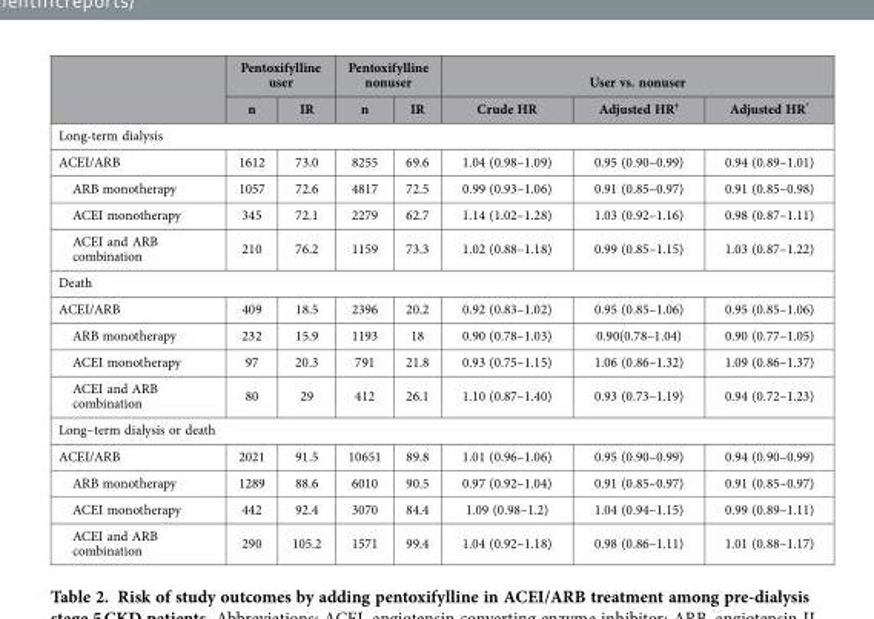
<table><thead><tr><td rowspan="2"></td><td colspan="2">Pentoxifylline user</td><td colspan="2">Pentoxifylline nonuser</td><td colspan="3">User vs. nonuser</td></tr><tr><td>n</td><td>IR</td><td>n</td><td>IR</td><td>Crude HR</td><td>Adjusted HR†</td><td>Adjusted HR*</td></tr></thead><tbody><tr><td colspan="8">Long-term dialysis</td></tr><tr><td>ACEI/ARB</td><td>1612</td><td>73.0</td><td>8255</td><td>69.6</td><td>1.04 (0.98–1.09)</td><td>0.95 (0.90–0.99)</td><td>0.94 (0.89–1.01)</td></tr><tr><td>ARB monotherapy</td><td>1057</td><td>72.6</td><td>4817</td><td>72.5</td><td>0.99 (0.93–1.06)</td><td>0.91 (0.85–0.97)</td><td>0.91 (0.85–0.98)</td></tr><tr><td>ACEI monotherapy</td><td>345</td><td>72.1</td><td>2279</td><td>62.7</td><td>1.14 (1.02–1.28)</td><td>1.03 (0.92–1.16)</td><td>0.98 (0.87–1.11)</td></tr><tr><td>ACEI and ARB combination</td><td>210</td><td>76.2</td><td>1159</td><td>73.3</td><td>1.02 (0.88–1.18)</td><td>0.99 (0.85–1.15)</td><td>1.03 (0.87–1.22)</td></tr><tr><td colspan="8">Death</td></tr><tr><td>ACEI/ARB</td><td>409</td><td>18.5</td><td>2396</td><td>20.2</td><td>0.92 (0.83–1.02)</td><td>0.95 (0.85–1.06)</td><td>0.95 (0.85–1.06)</td></tr><tr><td>ARB monotherapy</td><td>232</td><td>15.9</td><td>1193</td><td>18</td><td>0.90 (0.78–1.03)</td><td>0.90(0.78–1.04)</td><td>0.90 (0.77–1.05)</td></tr><tr><td>ACEI monotherapy</td><td>97</td><td>20.3</td><td>791</td><td>21.8</td><td>0.93 (0.75–1.15)</td><td>1.06 (0.86–1.32)</td><td>1.09 (0.86–1.37)</td></tr><tr><td>ACEI and ARB combination</td><td>80</td><td>29</td><td>412</td><td>26.1</td><td>1.10 (0.87–1.40)</td><td>0.93 (0.73–1.19)</td><td>0.94 (0.72–1.23)</td></tr><tr><td colspan="8">Long–term dialysis or death</td></tr><tr><td>ACEI/ARB</td><td>2021</td><td>91.5</td><td>10651</td><td>89.8</td><td>1.01 (0.96–1.06)</td><td>0.95 (0.90–0.99)</td><td>0.94 (0.90–0.99)</td></tr><tr><td>ARB monotherapy</td><td>1289</td><td>88.6</td><td>6010</td><td>90.5</td><td>0.97 (0.92–1.04)</td><td>0.91 (0.85–0.97)</td><td>0.91 (0.85–0.97)</td></tr><tr><td>ACEI monotherapy</td><td>442</td><td>92.4</td><td>3070</td><td>84.4</td><td>1.09 (0.98–1.2)</td><td>1.04 (0.94–1.15)</td><td>0.99 (0.89–1.11)</td></tr><tr><td>ACEI and ARB combination</td><td>290</td><td>105.2</td><td>1571</td><td>99.4</td><td>1.04 (0.92–1.18)</td><td>0.98 (0.86–1.11)</td><td>1.01 (0.88–1.17)</td></tr></tbody></table>